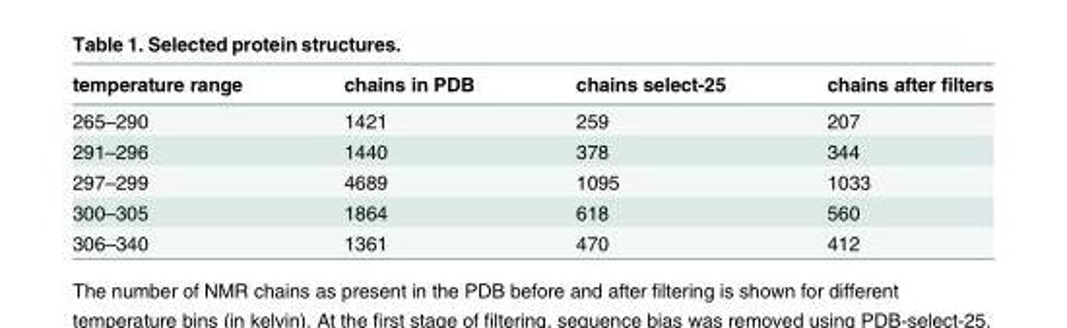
<table><thead><tr><td>temperature range</td><td>chains in PDB</td><td>chains select-25</td><td>chains after filters</td></tr></thead><tbody><tr><td>265–290</td><td>1421</td><td>259</td><td>207</td></tr><tr><td>291–296</td><td>1440</td><td>378</td><td>344</td></tr><tr><td>297–299</td><td>4689</td><td>1095</td><td>1033</td></tr><tr><td>300–305</td><td>1864</td><td>618</td><td>560</td></tr><tr><td>306–340</td><td>1361</td><td>470</td><td>412</td></tr></tbody></table>